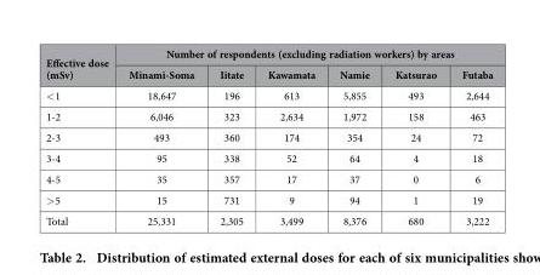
<table><thead><tr><td rowspan="2">Effective dose (mSv)</td><td colspan="6">Number of respondents (excluding radiation workers) by areas</td></tr><tr><td>Minami-Soma</td><td>Iitate</td><td>Kawamata</td><td>Namie</td><td>Katsurao</td><td>Futaba</td></tr></thead><tbody><tr><td>&lt; 1</td><td>18,647</td><td>196</td><td>613</td><td>5,855</td><td>493</td><td>2,644</td></tr><tr><td>1-2</td><td>6,046</td><td>323</td><td>2,634</td><td>1,972</td><td>158</td><td>463</td></tr><tr><td>2-3</td><td>493</td><td>360</td><td>174</td><td>354</td><td>24</td><td>72</td></tr><tr><td>3-4</td><td>95</td><td>338</td><td>52</td><td>64</td><td>4</td><td>18</td></tr><tr><td>4-5</td><td>35</td><td>357</td><td>17</td><td>37</td><td>0</td><td>6</td></tr><tr><td>&gt; 5</td><td>15</td><td>731</td><td>9</td><td>94</td><td>1</td><td>19</td></tr><tr><td>Total</td><td>25,331</td><td>2,305</td><td>3,499</td><td>8,376</td><td>680</td><td>3,222</td></tr></tbody></table>